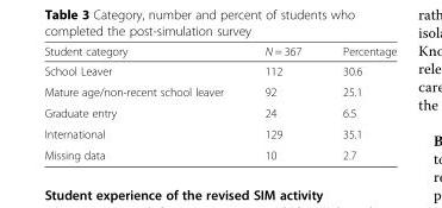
<table><thead><tr><td>Student category</td><td>N = 367</td><td>Percentage</td></tr></thead><tbody><tr><td>School Leaver</td><td>112</td><td>30.6</td></tr><tr><td>Mature age/non-recent school leaver</td><td>92</td><td>25.1</td></tr><tr><td>Graduate entry</td><td>24</td><td>6.5</td></tr><tr><td>International</td><td>129</td><td>35.1</td></tr><tr><td>Missing data</td><td>10</td><td>2.7</td></tr></tbody></table>